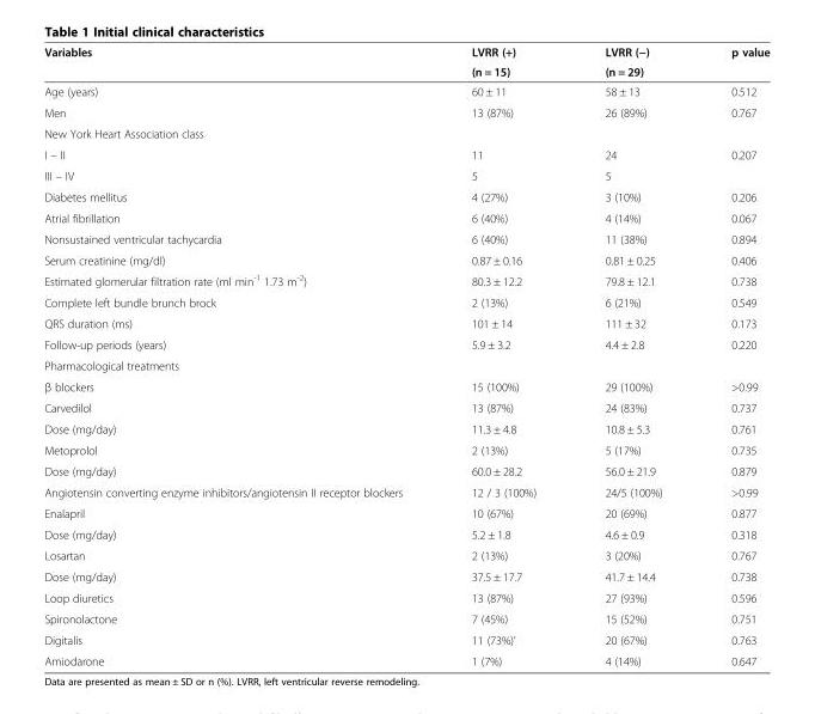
<table><thead><tr><td rowspan="2">Variables</td><td rowspan="2">LVRR (+) (n = 15)</td><td rowspan="2">LVRR (−) (n = 29)</td><td rowspan="2">p value</td></tr><tr></tr></thead><tbody><tr><td>Age (years)</td><td>60 ± 11</td><td>58 ± 13</td><td>0.512</td></tr><tr><td>Men</td><td>13 (87%)</td><td>26 (89%)</td><td>0.767</td></tr><tr><td colspan="4">New York Heart Association class</td></tr><tr><td>I – II</td><td>11</td><td>24</td><td>0.207</td></tr><tr><td>III – IV</td><td>5</td><td>5</td><td></td></tr><tr><td>Diabetes mellitus</td><td>4 (27%)</td><td>3 (10%)</td><td>0.206</td></tr><tr><td>Atrial fibrillation</td><td>6 (40%)</td><td>4 (14%)</td><td>0.067</td></tr><tr><td>Nonsustained ventricular tachycardia</td><td>6 (40%)</td><td>11 (38%)</td><td>0.894</td></tr><tr><td>Serum creatinine (mg/dl)</td><td>0.87 ± 0.16</td><td>0.81 ± 0.25</td><td>0.406</td></tr><tr><td>Estimated glomerular filtration rate (ml min<sup>-1</sup> 1.73 m<sup>-2</sup>)</td><td>80.3 ± 12.2</td><td>79.8 ± 12.1</td><td>0.738</td></tr><tr><td>Complete left bundle brunch brock</td><td>2 (13%)</td><td>6 (21%)</td><td>0.549</td></tr><tr><td>QRS duration (ms)</td><td>101 ± 14</td><td>111 ± 32</td><td>0.173</td></tr><tr><td>Follow-up periods (years)</td><td>5.9 ± 3.2</td><td>4.4 ± 2.8</td><td>0.220</td></tr><tr><td colspan="4">Pharmacological treatments</td></tr><tr><td>β blockers</td><td>15 (100%)</td><td>29 (100%)</td><td>&gt;0.99</td></tr><tr><td>Carvedilol</td><td>13 (87%)</td><td>24 (83%)</td><td>0.737</td></tr><tr><td>Dose (mg/day)</td><td>11.3 ± 4.8</td><td>10.8 ± 5.3</td><td>0.761</td></tr><tr><td>Metoprolol</td><td>2 (13%)</td><td>5 (17%)</td><td>0.735</td></tr><tr><td>Dose (mg/day)</td><td>60.0 ± 28.2</td><td>56.0 ± 21.9</td><td>0.879</td></tr><tr><td>Angiotensin converting enzyme inhibitors/angiotensin II receptor blockers</td><td>12 / 3 (100%)</td><td>24/5 (100%)</td><td>&gt;0.99</td></tr><tr><td>Enalapril</td><td>10 (67%)</td><td>20 (69%)</td><td>0.877</td></tr><tr><td>Dose (mg/day)</td><td>5.2 ± 1.8</td><td>4.6 ± 0.9</td><td>0.318</td></tr><tr><td>Losartan</td><td>2 (13%)</td><td>3 (20%)</td><td>0.767</td></tr><tr><td>Dose (mg/day)</td><td>37.5 ± 17.7</td><td>41.7 ± 14.4</td><td>0.738</td></tr><tr><td>Loop diuretics</td><td>13 (87%)</td><td>27 (93%)</td><td>0.596</td></tr><tr><td>Spironolactone</td><td>7 (45%)</td><td>15 (52%)</td><td>0.751</td></tr><tr><td>Digitalis</td><td>11 (73%)’</td><td>20 (67%)</td><td>0.763</td></tr><tr><td>Amiodarone</td><td>1 (7%)</td><td>4 (14%)</td><td>0.647</td></tr></tbody></table>